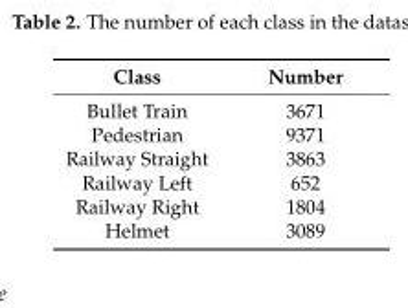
<table><thead><tr><td>Class</td><td>Number</td></tr></thead><tbody><tr><td>Bullet Train</td><td>3671</td></tr><tr><td>Pedestrian</td><td>9371</td></tr><tr><td>Railway Straight</td><td>3863</td></tr><tr><td>Railway Left</td><td>652</td></tr><tr><td>Railway Right</td><td>1804</td></tr><tr><td>Helmet</td><td>3089</td></tr></tbody></table>